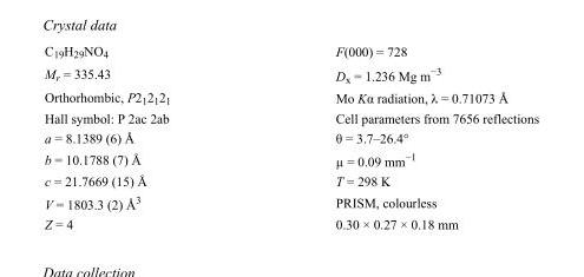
<table><tbody><tr><td>C<sub>19</sub>H<sub>29</sub>NO<sub>4</sub></td><td>F(000) = 728</td></tr><tr><td>M<sub>r</sub> = 335.43</td><td>D<sub>x</sub> = 1.236 Mg m<sup>−3</sup></td></tr><tr><td>Orthorhombic, P2<sub>1</sub>2<sub>1</sub>2<sub>1</sub></td><td>Mo Kα radiation, λ = 0.71073 Å</td></tr><tr><td>Hall symbol: P 2ac 2ab</td><td>Cell parameters from 7656 reflections</td></tr><tr><td>a = 8.1389 (6) Å</td><td>θ = 3.7–26.4°</td></tr><tr><td>b = 10.1788 (7) Å</td><td>µ = 0.09 mm<sup>−1</sup></td></tr><tr><td>c = 21.7669 (15) Å</td><td>T = 298 K</td></tr><tr><td>V = 1803.3 (2) Å<sup>3</sup></td><td>PRISM, colourless</td></tr><tr><td>Z = 4</td><td>0.30 × 0.27 × 0.18 mm</td></tr></tbody></table>